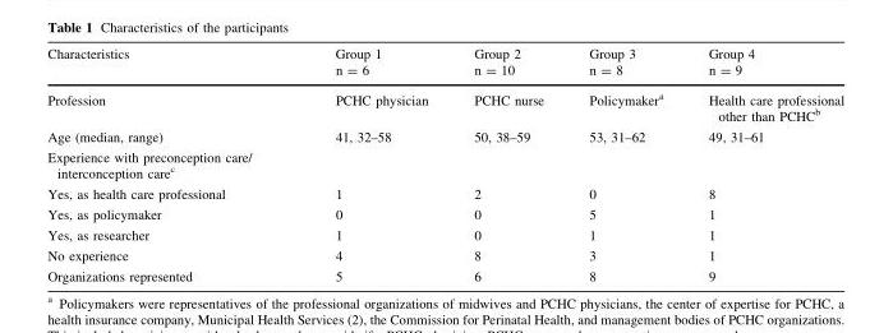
<table><thead><tr><td>Characteristics</td><td>Group 1 n = 6</td><td>Group 2 n = 10</td><td>Group 3 n = 8</td><td>Group 4 n = 9</td></tr></thead><tbody><tr><td>Profession</td><td>PCHC physician</td><td>PCHC nurse</td><td>Policymaker<sup>a</sup></td><td>Health care professional other than PCHC<sup>b</sup></td></tr><tr><td>Age (median, range)</td><td>41, 32–58</td><td>50, 38–59</td><td>53, 31–62</td><td>49, 31–61</td></tr><tr><td colspan="5">Experience with preconception care/ interconception care<sup>c</sup></td></tr><tr><td>Yes, as health care professional</td><td>1</td><td>2</td><td>0</td><td>8</td></tr><tr><td>Yes, as policymaker</td><td>0</td><td>0</td><td>5</td><td>1</td></tr><tr><td>Yes, as researcher</td><td>1</td><td>0</td><td>1</td><td>1</td></tr><tr><td>No experience</td><td>4</td><td>8</td><td>3</td><td>1</td></tr><tr><td>Organizations represented</td><td>5</td><td>6</td><td>8</td><td>9</td></tr></tbody></table>